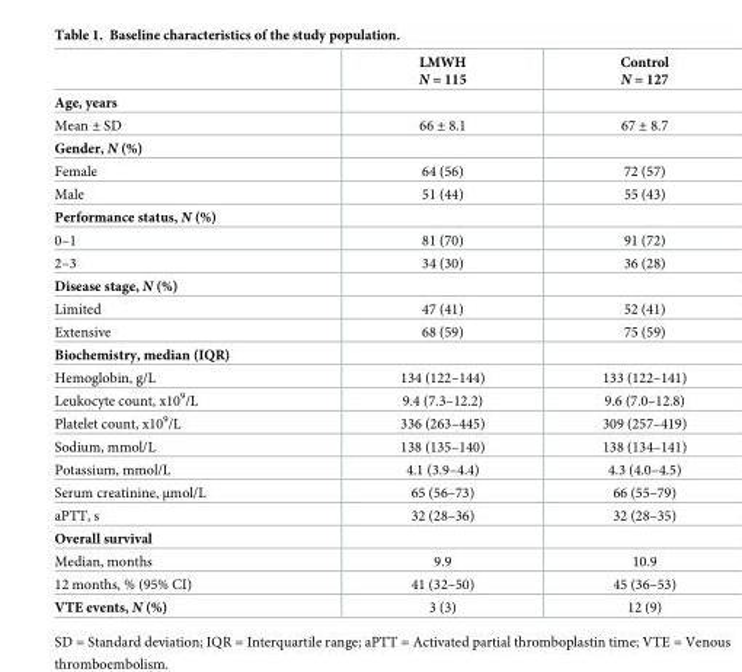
<table><thead><tr><td></td><td>LMWH N = 115</td><td>Control N = 127</td></tr></thead><tbody><tr><td colspan="3">Age, years</td></tr><tr><td>Mean ± SD</td><td>66 ± 8.1</td><td>67 ± 8.7</td></tr><tr><td colspan="3">Gender, N (%)</td></tr><tr><td>Female</td><td>64 (56)</td><td>72 (57)</td></tr><tr><td>Male</td><td>51 (44)</td><td>55 (43)</td></tr><tr><td colspan="3">Performance status, N (%)</td></tr><tr><td>0–1</td><td>81 (70)</td><td>91 (72)</td></tr><tr><td>2–3</td><td>34 (30)</td><td>36 (28)</td></tr><tr><td colspan="3">Disease stage, N (%)</td></tr><tr><td>Limited</td><td>47 (41)</td><td>52 (41)</td></tr><tr><td>Extensive</td><td>68 (59)</td><td>75 (59)</td></tr><tr><td colspan="3">Biochemistry, median (IQR)</td></tr><tr><td>Hemoglobin, g/L</td><td>134 (122–144)</td><td>133 (122–141)</td></tr><tr><td>Leukocyte count, x10<sup>9</sup>/L</td><td>9.4 (7.3–12.2)</td><td>9.6 (7.0–12.8)</td></tr><tr><td>Platelet count, x10<sup>9</sup>/L</td><td>336 (263–445)</td><td>309 (257–419)</td></tr><tr><td>Sodium, mmol/L</td><td>138 (135–140)</td><td>138 (134–141)</td></tr><tr><td>Potassium, mmol/L</td><td>4.1 (3.9–4.4)</td><td>4.3 (4.0–4.5)</td></tr><tr><td>Serum creatinine, μmol/L</td><td>65 (56–73)</td><td>66 (55–79)</td></tr><tr><td>aPTT, s</td><td>32 (28–36)</td><td>32 (28–35)</td></tr><tr><td colspan="3">Overall survival</td></tr><tr><td>Median, months</td><td>9.9</td><td>10.9</td></tr><tr><td>12 months, % (95% CI)</td><td>41 (32–50)</td><td>45 (36–53)</td></tr><tr><td>VTE events, N (%)</td><td>3 (3)</td><td>12 (9)</td></tr></tbody></table>